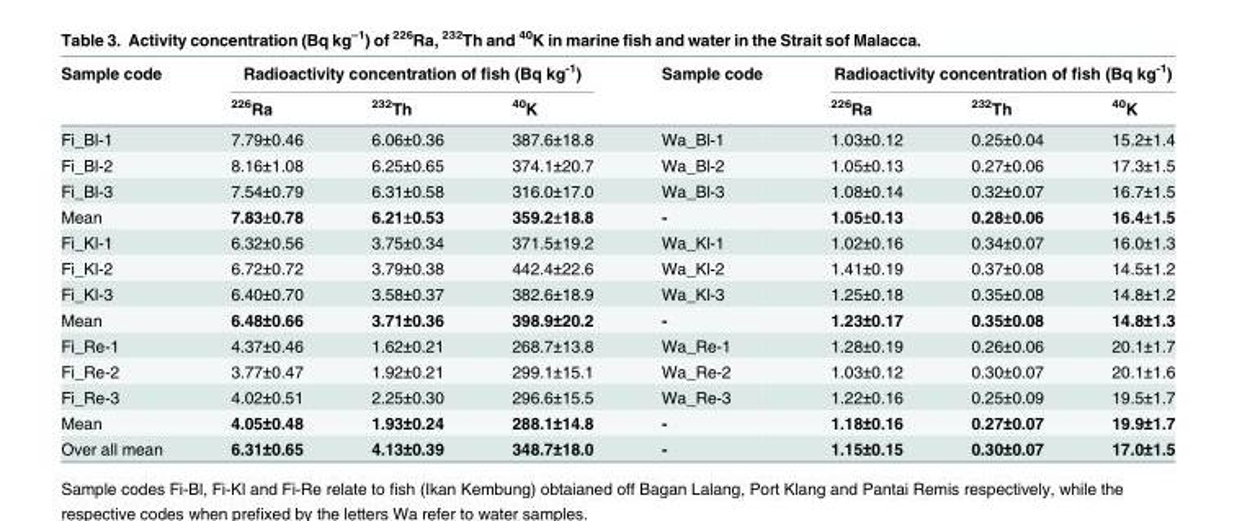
<table><thead><tr><td rowspan="2">Sample code</td><td colspan="3">Radioactivity concentration of fish (Bq kg<sup>-1</sup>)</td><td rowspan="2">Sample code</td><td colspan="3">Radioactivity concentration of fish (Bq kg<sup>-1</sup>)</td></tr><tr><td><sup>226</sup>Ra</td><td><sup>232</sup>Th</td><td><sup>40</sup>K</td><td><sup>226</sup>Ra</td><td><sup>232</sup>Th</td><td><sup>40</sup>K</td></tr></thead><tbody><tr><td>Fi_Bl-1</td><td>7.79±0.46</td><td>6.06±0.36</td><td>387.6±18.8</td><td>Wa_Bl-1</td><td>1.03±0.12</td><td>0.25±0.04</td><td>15.2±1.4</td></tr><tr><td>Fi_Bl-2</td><td>8.16±1.08</td><td>6.25±0.65</td><td>374.1±20.7</td><td>Wa_Bl-2</td><td>1.05±0.13</td><td>0.27±0.06</td><td>17.3±1.5</td></tr><tr><td>Fi_Bl-3</td><td>7.54±0.79</td><td>6.31±0.58</td><td>316.0±17.0</td><td>Wa_Bl-3</td><td>1.08±0.14</td><td>0.32±0.07</td><td>16.7±1.5</td></tr><tr><td>Mean</td><td>7.83±0.78</td><td>6.21±0.53</td><td>359.2±18.8</td><td>-</td><td>1.05±0.13</td><td>0.28±0.06</td><td>16.4±1.5</td></tr><tr><td>Fi_Kl-1</td><td>6.32±0.56</td><td>3.75±0.34</td><td>371.5±19.2</td><td>Wa_Kl-1</td><td>1.02±0.16</td><td>0.34±0.07</td><td>16.0±1.3</td></tr><tr><td>Fi_Kl-2</td><td>6.72±0.72</td><td>3.79±0.38</td><td>442.4±22.6</td><td>Wa_Kl-2</td><td>1.41±0.19</td><td>0.37±0.08</td><td>14.5±1.2</td></tr><tr><td>Fi_Kl-3</td><td>6.40±0.70</td><td>3.58±0.37</td><td>382.6±18.9</td><td>Wa_Kl-3</td><td>1.25±0.18</td><td>0.35±0.08</td><td>14.8±1.2</td></tr><tr><td>Mean</td><td>6.48±0.66</td><td>3.71±0.36</td><td>398.9±20.2</td><td>-</td><td>1.23±0.17</td><td>0.35±0.08</td><td>14.8±1.3</td></tr><tr><td>Fi_Re-1</td><td>4.37±0.46</td><td>1.62±0.21</td><td>268.7±13.8</td><td>Wa_Re-1</td><td>1.28±0.19</td><td>0.26±0.06</td><td>20.1±1.7</td></tr><tr><td>Fi_Re-2</td><td>3.77±0.47</td><td>1.92±0.21</td><td>299.1±15.1</td><td>Wa_Re-2</td><td>1.03±0.12</td><td>0.30±0.07</td><td>20.1±1.6</td></tr><tr><td>Fi_Re-3</td><td>4.02±0.51</td><td>2.25±0.30</td><td>296.6±15.5</td><td>Wa_Re-3</td><td>1.22±0.16</td><td>0.25±0.09</td><td>19.5±1.7</td></tr><tr><td>Mean</td><td>4.05±0.48</td><td>1.93±0.24</td><td>288.1±14.8</td><td>-</td><td>1.18±0.16</td><td>0.27±0.07</td><td>19.9±1.7</td></tr><tr><td>Over all mean</td><td>6.31±0.65</td><td>4.13±0.39</td><td>348.7±18.0</td><td>-</td><td>1.15±0.15</td><td>0.30±0.07</td><td>17.0±1.5</td></tr></tbody></table>